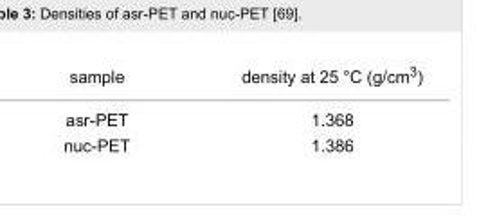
<table><tbody><tr><td>sample</td><td>density at 25 °C (g/cm<sup>3</sup>)</td></tr><tr><td>asr-PET</td><td>1.368</td></tr><tr><td>nuc-PET</td><td>1.386</td></tr></tbody></table>